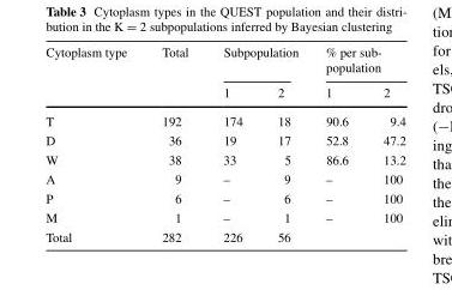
<table><thead><tr><td rowspan="2">Cytoplasm type</td><td rowspan="2">Total</td><td colspan="2">Subpopulation</td><td colspan="2">% per sub- population</td></tr><tr><td>1</td><td>2</td><td>1</td><td>2</td></tr></thead><tbody><tr><td>T</td><td>192</td><td>174</td><td>18</td><td>90.6</td><td>9.4</td></tr><tr><td>D</td><td>36</td><td>19</td><td>17</td><td>52.8</td><td>47.2</td></tr><tr><td>W</td><td>38</td><td>33</td><td>5</td><td>86.6</td><td>13.2</td></tr><tr><td>A</td><td>9</td><td>–</td><td>9</td><td>–</td><td>100</td></tr><tr><td>P</td><td>6</td><td>–</td><td>6</td><td>–</td><td>100</td></tr><tr><td>M</td><td>1</td><td>–</td><td>1</td><td>–</td><td>100</td></tr><tr><td>Total</td><td>282</td><td>226</td><td>56</td><td></td><td></td></tr></tbody></table>